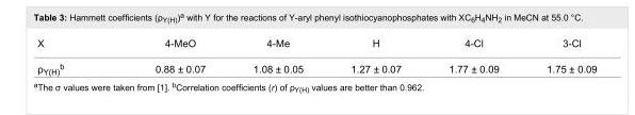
<table><tbody><tr><td>X</td><td>4-MeO</td><td>4-Me</td><td>H</td><td>4-Cl</td><td>3-Cl</td></tr><tr><td>ρ<sub>Y(H)</sub><sup>b</sup></td><td>0.88 ± 0.07</td><td>1.08 ± 0.05</td><td>1.27 ± 0.07</td><td>1.77 ± 0.09</td><td>1.75 ± 0.09</td></tr></tbody></table>